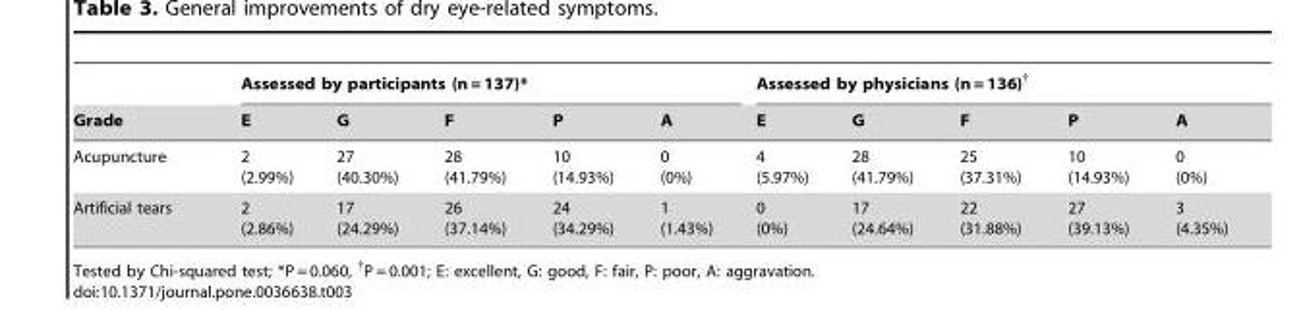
<table><thead><tr><td rowspan="2">Grade</td><td colspan="5">Assessed by participants (n = 137)*</td><td colspan="5">Assessed by physicians (n = 136)<sup>†</sup></td></tr><tr><td>E</td><td>G</td><td>F</td><td>P</td><td>A</td><td>E</td><td>G</td><td>F</td><td>P</td><td>A</td></tr></thead><tbody><tr><td>Acupuncture</td><td>2 (2.99%)</td><td>27 (40.30%)</td><td>28 (41.79%)</td><td>10 (14.93%)</td><td>0 (0%)</td><td>4 (5.97%)</td><td>28 (41.79%)</td><td>25 (37.31%)</td><td>10 (14.93%)</td><td>0 (0%)</td></tr><tr><td>Artificial tears</td><td>2 (2.86%)</td><td>17 (24.29%)</td><td>26 (37.14%)</td><td>24 (34.29%)</td><td>1 (1.43%)</td><td>0 (0%)</td><td>17 (24.64%)</td><td>22 (31.88%)</td><td>27 (39.13%)</td><td>3 (4.35%)</td></tr></tbody></table>